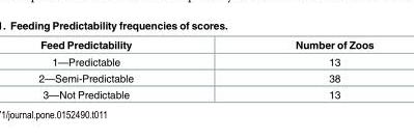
<table><thead><tr><td>Feed Predictability</td><td>Number of Zoos</td></tr></thead><tbody><tr><td>1—Predictable</td><td>13</td></tr><tr><td>2—Semi-Predictable</td><td>38</td></tr><tr><td>3—Not Predictable</td><td>13</td></tr></tbody></table>